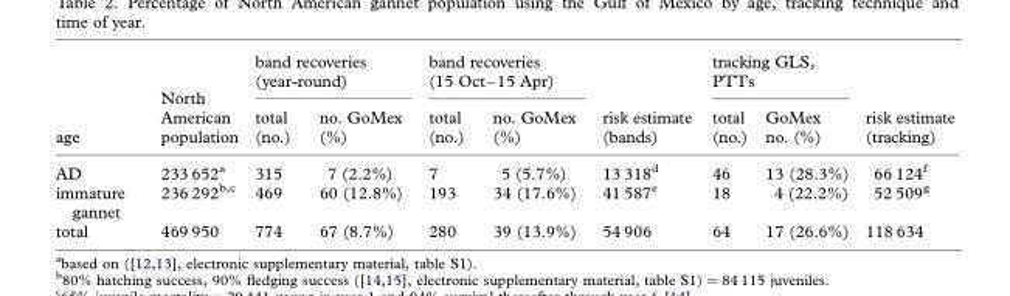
<table><thead><tr><td rowspan="2">age</td><td rowspan="2">North American population</td><td colspan="2">band recoveries (year-round)</td><td colspan="2">band recoveries (15 Oct–15 Apr)</td><td rowspan="2">risk estimate (bands)</td><td colspan="2">tracking GLS, PTTs</td><td rowspan="2">risk estimate (tracking)</td></tr><tr><td>total (no.)</td><td>no. GoMex (%)</td><td>total (no.)</td><td>no. GoMex (%)</td><td>total (no.)</td><td>GoMex no. (%)</td></tr></thead><tbody><tr><td>AD</td><td>233 652<sup>a</sup></td><td>315</td><td>7 (2.2%)</td><td>7</td><td>5 (5.7%)</td><td>13 318<sup>d</sup></td><td>46</td><td>13 (28.3%)</td><td>66 124<sup>f</sup></td></tr><tr><td>immature gannet</td><td>236 292<sup>b,c</sup></td><td>469</td><td>60 (12.8%)</td><td>193</td><td>34 (17.6%)</td><td>41 587<sup>e</sup></td><td>18</td><td>4 (22.2%)</td><td>52 509<sup>g</sup></td></tr><tr><td>total</td><td>469 950</td><td>774</td><td>67 (8.7%)</td><td>280</td><td>39 (13.9%)</td><td>54 906</td><td>64</td><td>17 (26.6%)</td><td>118 634</td></tr></tbody></table>